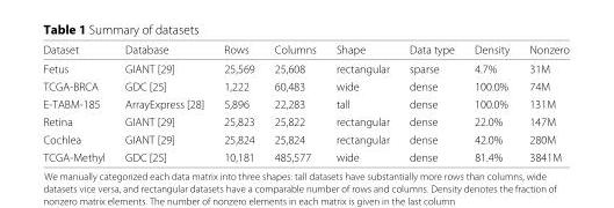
<table><thead><tr><td>Dataset</td><td>Database</td><td>Rows</td><td>Columns</td><td>Shape</td><td>Data type</td><td>Density</td><td>Nonzero</td></tr></thead><tbody><tr><td>Fetus</td><td>GIANT [29]</td><td>25,569</td><td>25,608</td><td>rectangular</td><td>sparse</td><td>4.7%</td><td>31M</td></tr><tr><td>TCGA-BRCA</td><td>GDC [25]</td><td>1,222</td><td>60,483</td><td>wide</td><td>dense</td><td>100.0%</td><td>74M</td></tr><tr><td>E-TABM-185</td><td>ArrayExpress [28]</td><td>5,896</td><td>22,283</td><td>tall</td><td>dense</td><td>100.0%</td><td>131M</td></tr><tr><td>Retina</td><td>GIANT [29]</td><td>25,823</td><td>25,822</td><td>rectangular</td><td>dense</td><td>22.0%</td><td>147M</td></tr><tr><td>Cochlea</td><td>GIANT [29]</td><td>25,824</td><td>25,824</td><td>rectangular</td><td>dense</td><td>42.0%</td><td>280M</td></tr><tr><td>TCGA-Methyl</td><td>GDC [25]</td><td>10,181</td><td>485,577</td><td>wide</td><td>dense</td><td>81.4%</td><td>3841M</td></tr></tbody></table>